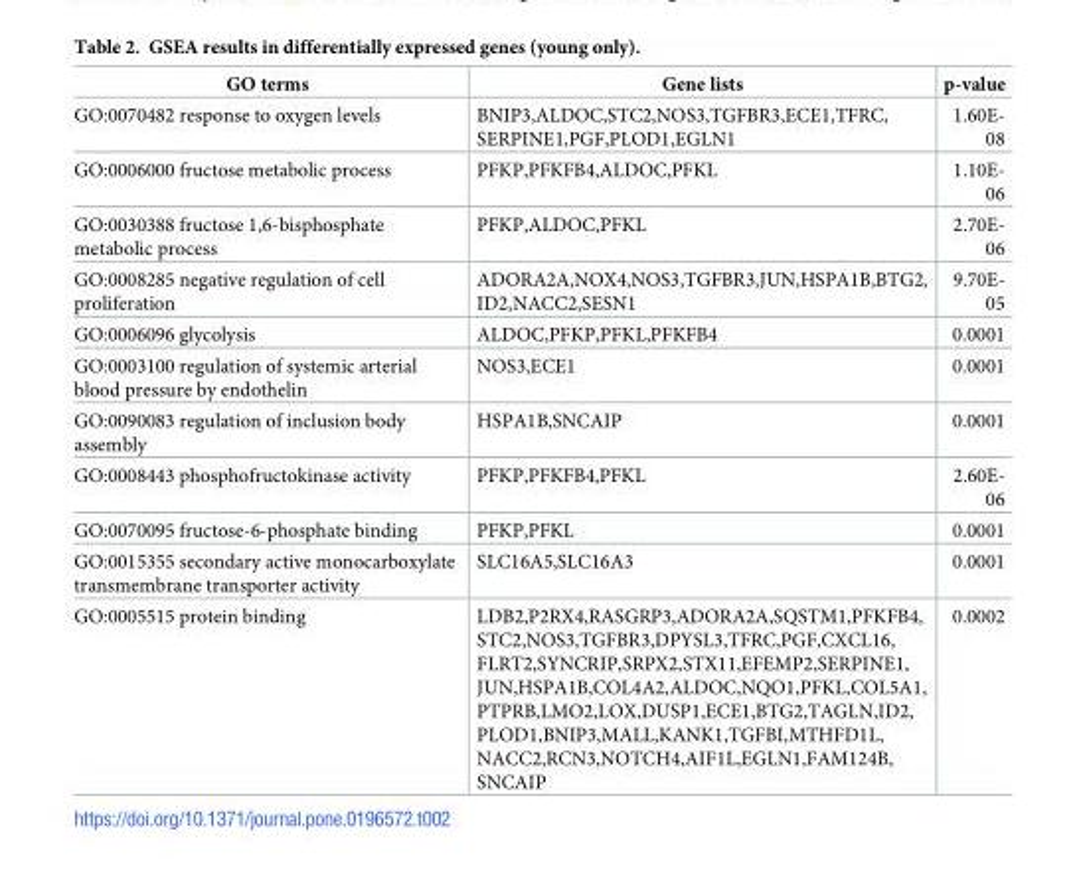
<table><thead><tr><td>GO terms</td><td>Gene lists</td><td>p-value</td></tr></thead><tbody><tr><td>GO:0070482 response to oxygen levels</td><td>BNIP3,ALDOC,STC2,NOS3,TGFBR3,ECE1,TFRC, SERPINE1,PGF,PLOD1,EGLN1</td><td>1.60E- 08</td></tr><tr><td>GO:0006000 fructose metabolic process</td><td>PFKP,PFKFB4,ALDOC,PFKL</td><td>1.10E- 06</td></tr><tr><td>GO:0030388 fructose 1,6-bisphosphate metabolic process</td><td>PFKP,ALDOC,PFKL</td><td>2.70E- 06</td></tr><tr><td>GO:0008285 negative regulation of cell proliferation</td><td>ADORA2A,NOX4,NOS3,TGFBR3,JUN,HSPA1B,BTG2, ID2,NACC2,SESN1</td><td>9.70E- 05</td></tr><tr><td>GO:0006096 glycolysis</td><td>ALDOC,PFKP,PFKL,PFKFB4</td><td>0.0001</td></tr><tr><td>GO:0003100 regulation of systemic arterial blood pressure by endothelin</td><td>NOS3,ECE1</td><td>0.0001</td></tr><tr><td>GO:0090083 regulation of inclusion body assembly</td><td>HSPA1B,SNCAIP</td><td>0.0001</td></tr><tr><td>GO:0008443 phosphofructokinase activity</td><td>PFKP,PFKFB4,PFKL</td><td>2.60E- 06</td></tr><tr><td>GO:0070095 fructose-6-phosphate binding</td><td>PFKP,PFKL</td><td>0.0001</td></tr><tr><td>GO:0015355 secondary active monocarboxylate transmembrane transporter activity</td><td>SLC16A5,SLC16A3</td><td>0.0001</td></tr><tr><td>GO:0005515 protein binding</td><td>LDB2,P2RX4,RASGRP3,ADORA2A,SQSTM1,PFKFB4, STC2,NOS3,TGFBR3,DPYSL3,TFRC,PGF,CXCL16, FLRT2,SYNCRIP,SRPX2,STX11,EFEMP2,SERPINE1, JUN,HSPA1B,COL4A2,ALDOC,NQO1,PFKL,COL5A1, PTPRB,LMO2,LOX,DUSP1,ECE1,BTG2,TAGLN,ID2, PLOD1,BNIP3,MALL,KANK1,TGFBI,MTHFD1L, NACC2,RCN3,NOTCH4,AIF1L,EGLN1,FAM124B, SNCAIP</td><td>0.0002</td></tr></tbody></table>